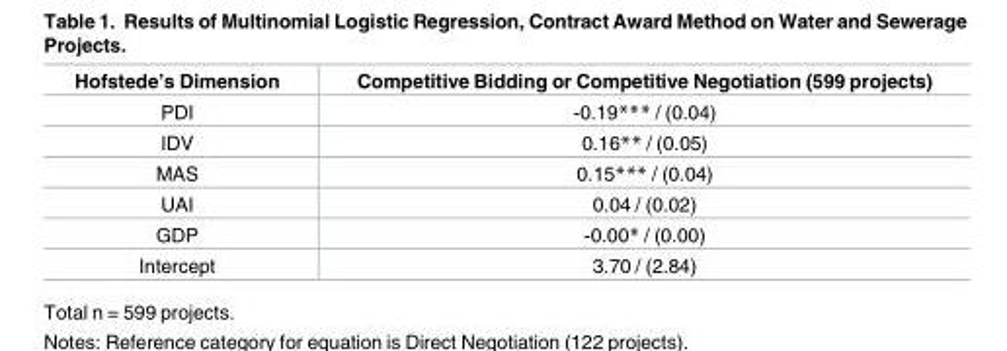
<table><thead><tr><td>Hofstede’s Dimension</td><td>Competitive Bidding or Competitive Negotiation (599 projects)</td></tr></thead><tbody><tr><td>PDI</td><td>-0.19*** / (0.04)</td></tr><tr><td>IDV</td><td>0.16** / (0.05)</td></tr><tr><td>MAS</td><td>0.15*** / (0.04)</td></tr><tr><td>UAI</td><td>0.04 / (0.02)</td></tr><tr><td>GDP</td><td>-0.00* / (0.00)</td></tr><tr><td>Intercept</td><td>3.70 / (2.84)</td></tr></tbody></table>